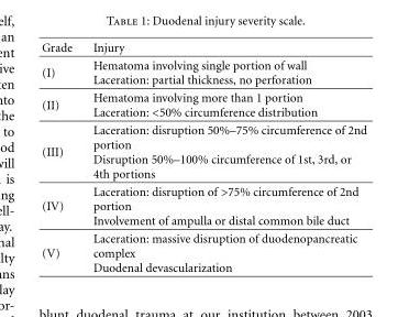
<table><thead><tr><td>Grade</td><td>Injury</td></tr></thead><tbody><tr><td>(I)</td><td>Hematoma involving single portion of wall Laceration: partial thickness, no perforation</td></tr><tr><td>(II)</td><td>Hematoma involving more than 1 portion Laceration: &lt;50% circumference distribution</td></tr><tr><td>(III)</td><td>Laceration: disruption 50%–75% circumference of 2nd portion Disruption 50%–100% circumference of 1st, 3rd, or 4th portions</td></tr><tr><td>(IV)</td><td>Laceration: disruption of &gt;75% circumference of 2nd portion Involvement of ampulla or distal common bile duct</td></tr><tr><td>(V)</td><td>Laceration: massive disruption of duodenopancreatic complex Duodenal devascularization</td></tr></tbody></table>